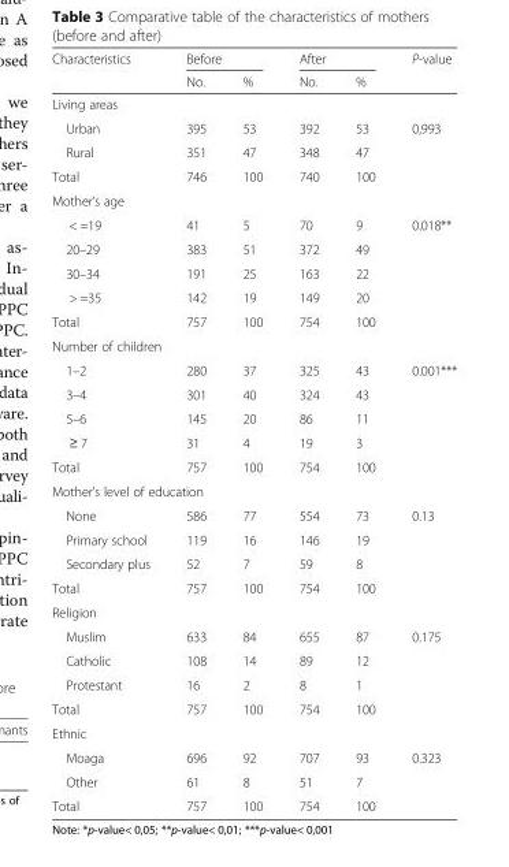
<table><thead><tr><td rowspan="2">Characteristics</td><td colspan="2">Before</td><td colspan="2">After</td><td rowspan="2">P-value</td></tr><tr><td>No.</td><td>%</td><td>No.</td><td>%</td></tr></thead><tbody><tr><td colspan="6">Living areas</td></tr><tr><td>Urban</td><td>395</td><td>53</td><td>392</td><td>53</td><td rowspan="3">0,993</td></tr><tr><td>Rural</td><td>351</td><td>47</td><td>348</td><td>47</td></tr><tr><td>Total</td><td>746</td><td>100</td><td>740</td><td>100</td></tr><tr><td colspan="6">Mother’s age</td></tr><tr><td>&lt; =19</td><td>41</td><td>5</td><td>70</td><td>9</td><td rowspan="5">0.018**</td></tr><tr><td>20–29</td><td>383</td><td>51</td><td>372</td><td>49</td></tr><tr><td>30–34</td><td>191</td><td>25</td><td>163</td><td>22</td></tr><tr><td>&gt; =35</td><td>142</td><td>19</td><td>149</td><td>20</td></tr><tr><td>Total</td><td>757</td><td>100</td><td>754</td><td>100</td></tr><tr><td colspan="6">Number of children</td></tr><tr><td>1–2</td><td>280</td><td>37</td><td>325</td><td>43</td><td rowspan="5">0.001***</td></tr><tr><td>3–4</td><td>301</td><td>40</td><td>324</td><td>43</td></tr><tr><td>5–6</td><td>145</td><td>20</td><td>86</td><td>11</td></tr><tr><td>≥ 7</td><td>31</td><td>4</td><td>19</td><td>3</td></tr><tr><td>Total</td><td>757</td><td>100</td><td>754</td><td>100</td></tr><tr><td colspan="6">Mother’s level of education</td></tr><tr><td>None</td><td>586</td><td>77</td><td>554</td><td>73</td><td rowspan="4">0.13</td></tr><tr><td>Primary school</td><td>119</td><td>16</td><td>146</td><td>19</td></tr><tr><td>Secondary plus</td><td>52</td><td>7</td><td>59</td><td>8</td></tr><tr><td>Total</td><td>757</td><td>100</td><td>754</td><td>100</td></tr><tr><td colspan="6">Religion</td></tr><tr><td>Muslim</td><td>633</td><td>84</td><td>655</td><td>87</td><td rowspan="4">0.175</td></tr><tr><td>Catholic</td><td>108</td><td>14</td><td>89</td><td>12</td></tr><tr><td>Protestant</td><td>16</td><td>2</td><td>8</td><td>1</td></tr><tr><td>Total</td><td>757</td><td>100</td><td>754</td><td>100</td></tr><tr><td colspan="6">Ethnic</td></tr><tr><td>Moaga</td><td>696</td><td>92</td><td>707</td><td>93</td><td rowspan="3">0.323</td></tr><tr><td>Other</td><td>61</td><td>8</td><td>51</td><td>7</td></tr><tr><td>Total</td><td>757</td><td>100</td><td>754</td><td>100</td></tr></tbody></table>